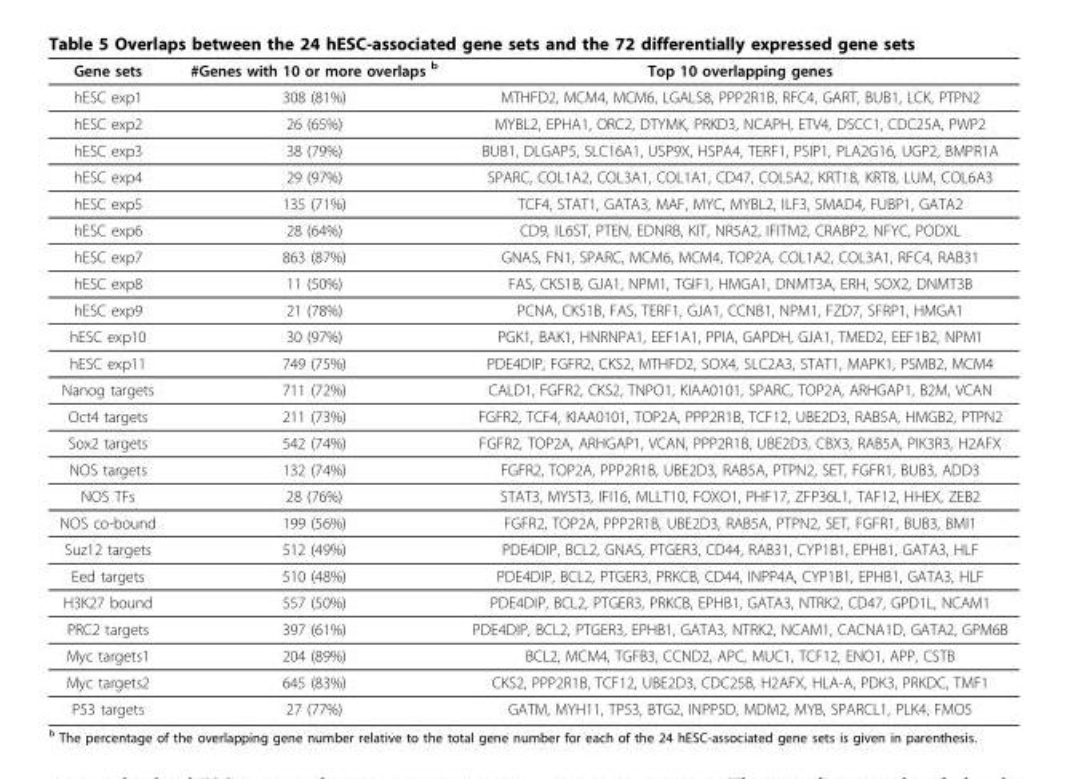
<table><thead><tr><td>Gene sets</td><td>#Genes with 10 or more overlaps b</td><td>Top 10 overlapping genes</td></tr></thead><tbody><tr><td>hESC exp1</td><td>308 (81%)</td><td>MTHFD2, MCM4, MCM6, LGALS8, PPP2R1B, RFC4, GART, BUB1, LCK, PTPN2</td></tr><tr><td>hESC exp2</td><td>26 (65%)</td><td>MYBL2, EPHA1, ORC2, DTYMK, PRKD3, NCAPH, ETV4, DSCC1, CDC25A, PWP2</td></tr><tr><td>hESC exp3</td><td>38 (79%)</td><td>BUB1, DLGAP5, SLC16A1, USP9X, HSPA4, TERF1, PSIP1, PLA2G16, UGP2, BMPR1A</td></tr><tr><td>hESC exp4</td><td>29 (97%)</td><td>SPARC, COL1A2, COL3A1, COL1A1, CD47, COL5A2, KRT18, KRT8, LUM, COL6A3</td></tr><tr><td>hESC exp5</td><td>135 (71%)</td><td>TCF4, STAT1, GATA3, MAF, MYC, MYBL2, ILF3, SMAD4, FUBP1, GATA2</td></tr><tr><td>hESC exp6</td><td>28 (64%)</td><td>CD9, IL6ST, PTEN, EDNRB, KIT, NR5A2, IFITM2, CRABP2, NFYC, PODXL</td></tr><tr><td>hESC exp7</td><td>863 (87%)</td><td>GNAS, FN1, SPARC, MCM6, MCM4, TOP2A, COL1A2, COL3A1, RFC4, RAB31</td></tr><tr><td>hESC exp8</td><td>11 (50%)</td><td>FAS, CKS1B, GJA1, NPM1, TGIF1, HMGA1, DNMT3A, ERH, SOX2, DNMT3B</td></tr><tr><td>hESC exp9</td><td>21 (78%)</td><td>PCNA, CKS1B, FAS, TERF1, GJA1, CCNB1, NPM1, FZD7, SFRP1, HMGA1</td></tr><tr><td>hESC exp10</td><td>30 (97%)</td><td>PGK1, BAK1, HNRNPA1, EEF1A1, PPIA, GAPDH, GJA1, TMED2, EEF1B2, NPM1</td></tr><tr><td>hESC exp11</td><td>749 (75%)</td><td>PDE4DIP, FGFR2, CKS2, MTHFD2, SOX4, SLC2A3, STAT1, MAPK1, PSMB2, MCM4</td></tr><tr><td>Nanog targets</td><td>711 (72%)</td><td>CALD1, FGFR2, CKS2, TNPO1, KIAA0101, SPARC, TOP2A, ARHGAP1, B2M, VCAN</td></tr><tr><td>Oct4 targets</td><td>211 (73%)</td><td>FGFR2, TCF4, KIAA0101, TOP2A, PPP2R1B, TCF12, UBE2D3, RAB5A, HMGB2, PTPN2</td></tr><tr><td>Sox2 targets</td><td>542 (74%)</td><td>FGFR2, TOP2A, ARHGAP1, VCAN, PPP2R1B, UBE2D3, CBX3, RAB5A, PIK3R3, H2AFX</td></tr><tr><td>NOS targets</td><td>132 (74%)</td><td>FGFR2, TOP2A, PPP2R1B, UBE2D3, RAB5A, PTPN2, SET, FGFR1, BUB3, ADD3</td></tr><tr><td>NOS TFs</td><td>28 (76%)</td><td>STAT3, MYST3, IFI16, MLLT10, FOXO1, PHF17, ZFP36L1, TAF12, HHEX, ZEB2</td></tr><tr><td>NOS co-bound</td><td>199 (56%)</td><td>FGFR2, TOP2A, PPP2R1B, UBE2D3, RAB5A, PTPN2, SET, FGFR1, BUB3, BMI1</td></tr><tr><td>Suz12 targets</td><td>512 (49%)</td><td>PDE4DIP, BCL2, GNAS, PTGER3, CD44, RAB31, CYP1B1, EPHB1, GATA3, HLF</td></tr><tr><td>Eed targets</td><td>510 (48%)</td><td>PDE4DIP, BCL2, PTGER3, PRKCB, CD44, INPP4A, CYP1B1, EPHB1, GATA3, HLF</td></tr><tr><td>H3K27 bound</td><td>557 (50%)</td><td>PDE4DIP, BCL2, PTGER3, PRKCB, EPHB1, GATA3, NTRK2, CD47, GPD1L, NCAM1</td></tr><tr><td>PRC2 targets</td><td>397 (61%)</td><td>PDE4DIP, BCL2, PTGER3, EPHB1, GATA3, NTRK2, NCAM1, CACNA1D, GATA2, GPM6B</td></tr><tr><td>Myc targets1</td><td>204 (89%)</td><td>BCL2, MCM4, TGFB3, CCND2, APC, MUC1, TCF12, ENO1, APP, CSTB</td></tr><tr><td>Myc targets2</td><td>645 (83%)</td><td>CKS2, PPP2R1B, TCF12, UBE2D3, CDC25B, H2AFX, HLA-A, PDK3, PRKDC, TMF1</td></tr><tr><td>P53 targets</td><td>27 (77%)</td><td>GATM, MYH11, TP53, BTG2, INPP5D, MDM2, MYB, SPARCL1, PLK4, FMO5</td></tr></tbody></table>